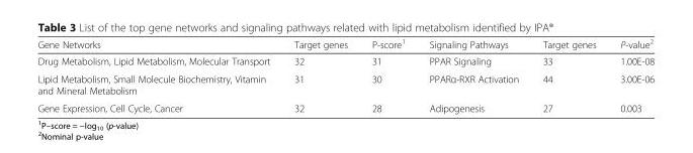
<table><thead><tr><td>Gene Networks</td><td>Target genes</td><td>P-score<sup>1</sup></td><td>Signaling Pathways</td><td>Target genes</td><td>P-value<sup>2</sup></td></tr></thead><tbody><tr><td>Drug Metabolism, Lipid Metabolism, Molecular Transport</td><td>32</td><td>31</td><td>PPAR Signaling</td><td>33</td><td>1.00E-08</td></tr><tr><td>Lipid Metabolism, Small Molecule Biochemistry, Vitamin and Mineral Metabolism</td><td>31</td><td>30</td><td>PPARα-RXR Activation</td><td>44</td><td>3.00E-06</td></tr><tr><td>Gene Expression, Cell Cycle, Cancer</td><td>32</td><td>28</td><td>Adipogenesis</td><td>27</td><td>0.003</td></tr></tbody></table>